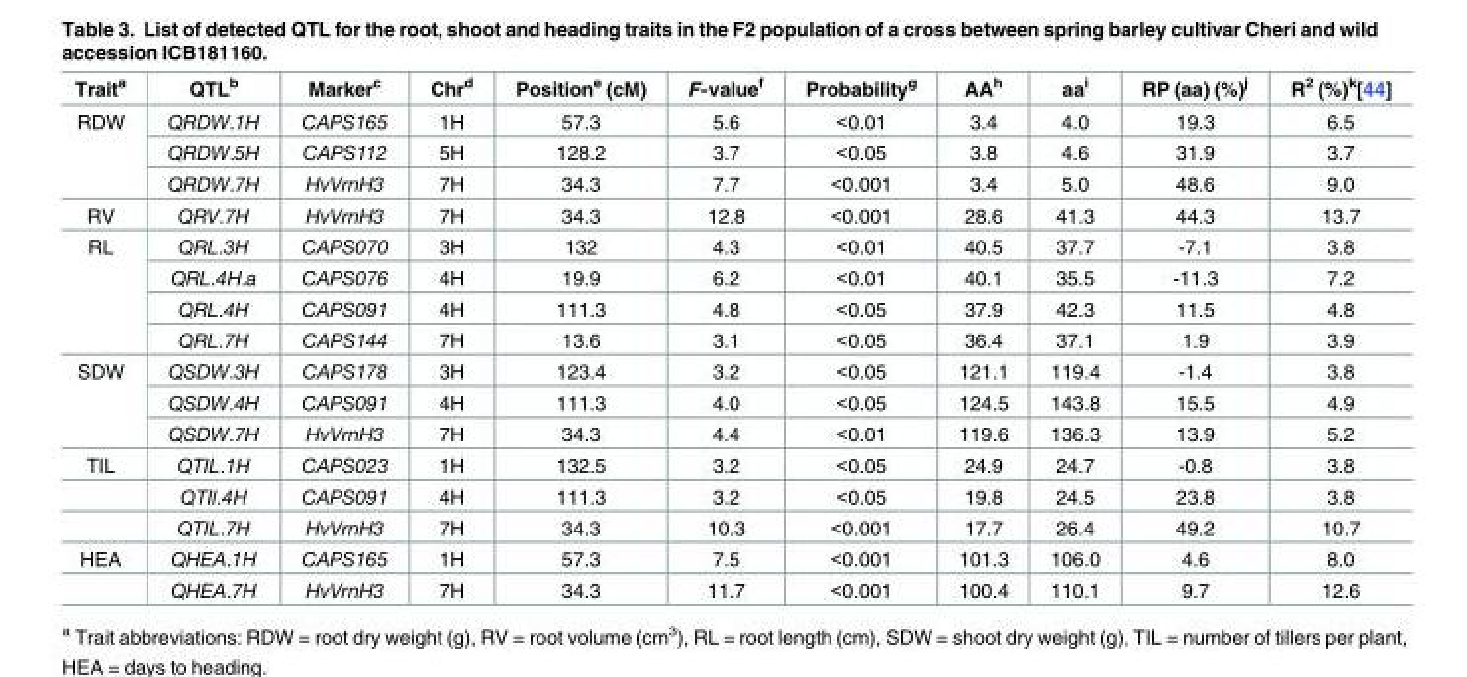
<table><thead><tr><td>Trait<sup>a</sup></td><td>QTL<sup>b</sup></td><td>Marker<sup>c</sup></td><td>Chr<sup>d</sup></td><td>Position<sup>e</sup> (cM)</td><td>F-value<sup>f</sup></td><td>Probability<sup>g</sup></td><td>AA<sup>h</sup></td><td>aa<sup>i</sup></td><td>RP (aa) (%)<sup>j</sup></td><td>R<sup>2</sup> (%)<sup>k</sup>[44]</td></tr></thead><tbody><tr><td rowspan="3">RDW</td><td>QRDW.1H</td><td>CAPS165</td><td>1H</td><td>57.3</td><td>5.6</td><td>&lt;0.01</td><td>3.4</td><td>4.0</td><td>19.3</td><td>6.5</td></tr><tr><td>QRDW.5H</td><td>CAPS112</td><td>5H</td><td>128.2</td><td>3.7</td><td>&lt;0.05</td><td>3.8</td><td>4.6</td><td>31.9</td><td>3.7</td></tr><tr><td>QRDW.7H</td><td>HvVrnH3</td><td>7H</td><td>34.3</td><td>7.7</td><td>&lt;0.001</td><td>3.4</td><td>5.0</td><td>48.6</td><td>9.0</td></tr><tr><td>RV</td><td>QRV.7H</td><td>HvVrnH3</td><td>7H</td><td>34.3</td><td>12.8</td><td>&lt;0.001</td><td>28.6</td><td>41.3</td><td>44.3</td><td>13.7</td></tr><tr><td rowspan="4">RL</td><td>QRL.3H</td><td>CAPS070</td><td>3H</td><td>132</td><td>4.3</td><td>&lt;0.01</td><td>40.5</td><td>37.7</td><td>-7.1</td><td>3.8</td></tr><tr><td>QRL.4H.a</td><td>CAPS076</td><td>4H</td><td>19.9</td><td>6.2</td><td>&lt;0.01</td><td>40.1</td><td>35.5</td><td>-11.3</td><td>7.2</td></tr><tr><td>QRL.4H</td><td>CAPS091</td><td>4H</td><td>111.3</td><td>4.8</td><td>&lt;0.05</td><td>37.9</td><td>42.3</td><td>11.5</td><td>4.8</td></tr><tr><td>QRL.7H</td><td>CAPS144</td><td>7H</td><td>13.6</td><td>3.1</td><td>&lt;0.05</td><td>36.4</td><td>37.1</td><td>1.9</td><td>3.9</td></tr><tr><td rowspan="3">SDW</td><td>QSDW.3H</td><td>CAPS178</td><td>3H</td><td>123.4</td><td>3.2</td><td>&lt;0.05</td><td>121.1</td><td>119.4</td><td>-1.4</td><td>3.8</td></tr><tr><td>QSDW.4H</td><td>CAPS091</td><td>4H</td><td>111.3</td><td>4.0</td><td>&lt;0.05</td><td>124.5</td><td>143.8</td><td>15.5</td><td>4.9</td></tr><tr><td>QSDW.7H</td><td>HvVrnH3</td><td>7H</td><td>34.3</td><td>4.4</td><td>&lt;0.01</td><td>119.6</td><td>136.3</td><td>13.9</td><td>5.2</td></tr><tr><td rowspan="3">TIL</td><td>QTIL.1H</td><td>CAPS023</td><td>1H</td><td>132.5</td><td>3.2</td><td>&lt;0.05</td><td>24.9</td><td>24.7</td><td>-0.8</td><td>3.8</td></tr><tr><td>QTIl.4H</td><td>CAPS091</td><td>4H</td><td>111.3</td><td>3.2</td><td>&lt;0.05</td><td>19.8</td><td>24.5</td><td>23.8</td><td>3.8</td></tr><tr><td>QTIL.7H</td><td>HvVrnH3</td><td>7H</td><td>34.3</td><td>10.3</td><td>&lt;0.001</td><td>17.7</td><td>26.4</td><td>49.2</td><td>10.7</td></tr><tr><td rowspan="2">HEA</td><td>QHEA.1H</td><td>CAPS165</td><td>1H</td><td>57.3</td><td>7.5</td><td>&lt;0.001</td><td>101.3</td><td>106.0</td><td>4.6</td><td>8.0</td></tr><tr><td>QHEA.7H</td><td>HvVrnH3</td><td>7H</td><td>34.3</td><td>11.7</td><td>&lt;0.001</td><td>100.4</td><td>110.1</td><td>9.7</td><td>12.6</td></tr></tbody></table>